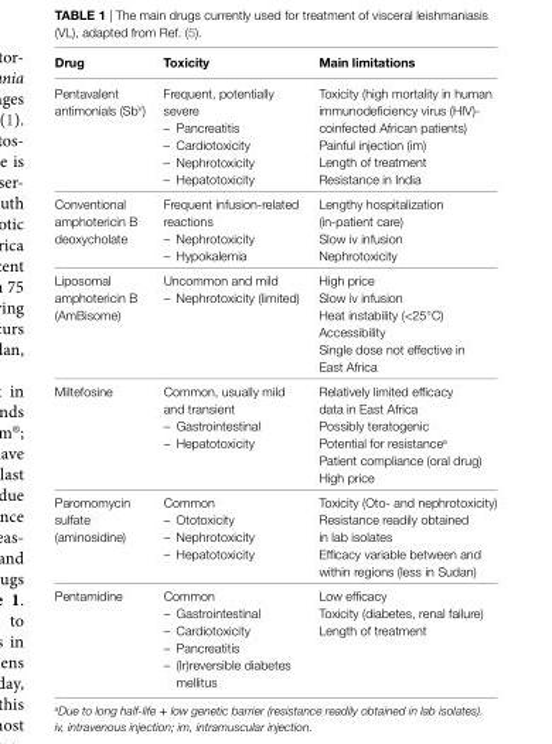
<table><thead><tr><td>Drug</td><td>Toxicity</td><td>Main limitations</td></tr></thead><tbody><tr><td>Pentavalent antimonials (Sb<sup>V</sup>)</td><td>Frequent, potentially severe – Pancreatitis – Cardiotoxicity – Nephrotoxicity – Hepatotoxicity</td><td>Toxicity (high mortality in human immunodeficiency virus (HIV)- coinfected African patients) Painful injection (im) Length of treatment Resistance in India</td></tr><tr><td>Conventional amphotericin B deoxycholate</td><td>Frequent infusion-related reactions – Nephrotoxicity – Hypokalemia</td><td>Lengthy hospitalization (in-patient care) Slow iv infusion Nephrotoxicity</td></tr><tr><td>Liposomal amphotericin B (AmBisome)</td><td>Uncommon and mild – Nephrotoxicity (limited)</td><td>High price Slow iv infusion Heat instability (&lt;25°C) Accessibility Single dose not effective in East Africa</td></tr><tr><td>Miltefosine</td><td>Common, usually mild and transient – Gastrointestinal – Hepatotoxicity</td><td>Relatively limited efficacy data in East Africa Possibly teratogenic Potential for resistance<sup>a</sup> Patient compliance (oral drug) High price</td></tr><tr><td>Paromomycin sulfate (aminosidine)</td><td>Common – Ototoxicity – Nephrotoxicity – Hepatotoxicity</td><td>Toxicity (Oto- and nephrotoxicity) Resistance readily obtained in lab isolates Efficacy variable between and within regions (less in Sudan)</td></tr><tr><td>Pentamidine</td><td>Common – Gastrointestinal – Cardiotoxicity – Pancreatitis – (Ir)reversible diabetes mellitus</td><td>Low efficacy Toxicity (diabetes, renal failure) Length of treatment</td></tr></tbody></table>